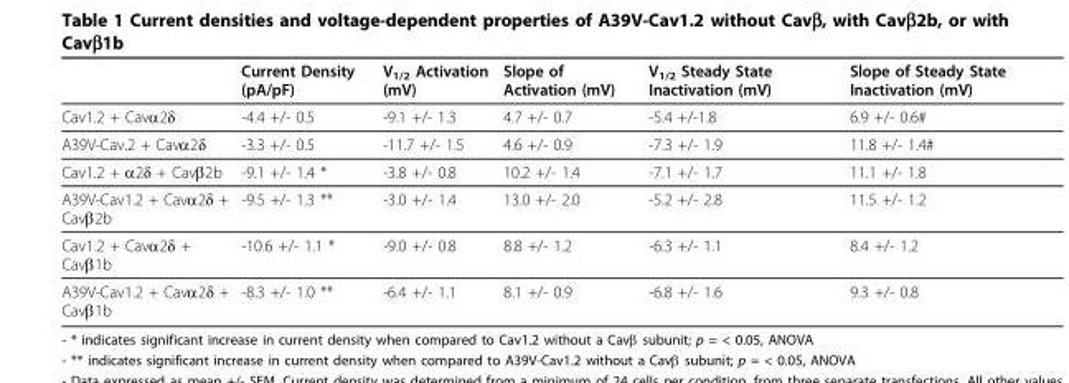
<table><thead><tr><td></td><td>Current Density (pA/pF)</td><td>V<sub>1/2</sub> Activation (mV)</td><td>Slope of Activation (mV)</td><td>V<sub>1/2</sub> Steady State Inactivation (mV)</td><td>Slope of Steady State Inactivation (mV)</td></tr></thead><tbody><tr><td>Cav1.2 + Cavα2δ</td><td>-4.4 +/- 0.5</td><td>-9.1 +/- 1.3</td><td>4.7 +/- 0.7</td><td>-5.4 +/-1.8</td><td>6.9 +/- 0.6#</td></tr><tr><td>A39V-Cav.2 + Cavα2δ</td><td>-3.3 +/- 0.5</td><td>-11.7 +/- 1.5</td><td>4.6 +/- 0.9</td><td>-7.3 +/- 1.9</td><td>11.8 +/- 1.4#</td></tr><tr><td>Cav1.2 + α2δ + Cavβ2b</td><td>-9.1 +/- 1.4 *</td><td>-3.8 +/- 0.8</td><td>10.2 +/- 1.4</td><td>-7.1 +/- 1.7</td><td>11.1 +/- 1.8</td></tr><tr><td>A39V-Cav1.2 + Cavα2δ + Cavβ2b</td><td>-9.5 +/- 1.3 **</td><td>-3.0 +/- 1.4</td><td>13.0 +/- 2.0</td><td>-5.2 +/- 2.8</td><td>11.5 +/- 1.2</td></tr><tr><td>Cav1.2 + Cavα2δ + Cavβ1b</td><td>-10.6 +/- 1.1 *</td><td>-9.0 +/- 0.8</td><td>8.8 +/- 1.2</td><td>-6.3 +/- 1.1</td><td>8.4 +/- 1.2</td></tr><tr><td>A39V-Cav1.2 + Cavα2δ + Cavβ1b</td><td>-8.3 +/- 1.0 **</td><td>-6.4 +/- 1.1</td><td>8.1 +/- 0.9</td><td>-6.8 +/- 1.6</td><td>9.3 +/- 0.8</td></tr></tbody></table>